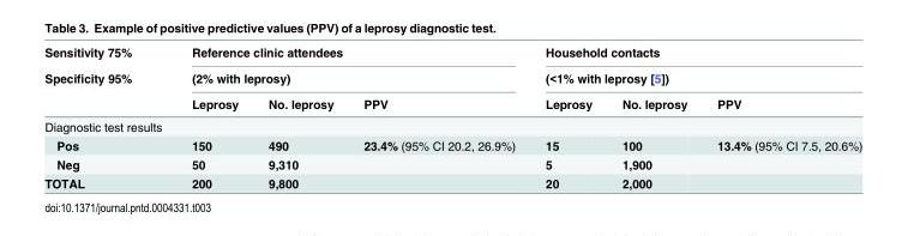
<table><thead><tr><td rowspan="3">Sensitivity 75% Specificity 95%</td><td rowspan="2" colspan="3">Reference clinic attendees (2% with leprosy)</td><td rowspan="2" colspan="3">Household contacts (&lt;1% with leprosy [5])</td></tr><tr></tr><tr><td>Leprosy</td><td>No. leprosy</td><td>PPV</td><td>Leprosy</td><td>No. leprosy</td><td>PPV</td></tr></thead><tbody><tr><td colspan="7">Diagnostic test results</td></tr><tr><td>Pos</td><td>150</td><td>490</td><td>23.4% (95% CI 20.2, 26.9%)</td><td>15</td><td>100</td><td>13.4% (95% CI 7.5, 20.6%)</td></tr><tr><td>Neg</td><td>50</td><td>9,310</td><td></td><td>5</td><td>1,900</td><td></td></tr><tr><td>TOTAL</td><td>200</td><td>9,800</td><td></td><td>20</td><td>2,000</td><td></td></tr></tbody></table>